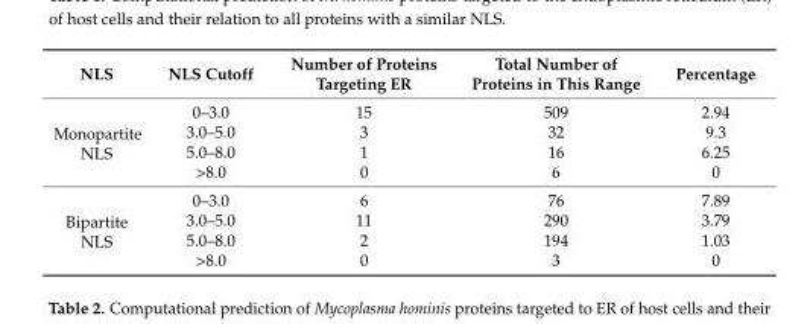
<table><thead><tr><td>NLS</td><td>NLS Cutoff</td><td>Number of Proteins Targeting ER</td><td>Total Number of Proteins in This Range</td><td>Percentage</td></tr></thead><tbody><tr><td rowspan="4">Monopartite NLS</td><td>0–3.0</td><td>15</td><td>509</td><td>2.94</td></tr><tr><td>3.0–5.0</td><td>3</td><td>32</td><td>9.3</td></tr><tr><td>5.0–8.0</td><td>1</td><td>16</td><td>6.25</td></tr><tr><td>&gt;8.0</td><td>0</td><td>6</td><td>0</td></tr><tr><td rowspan="4">Bipartite NLS</td><td>0–3.0</td><td>6</td><td>76</td><td>7.89</td></tr><tr><td>3.0–5.0</td><td>11</td><td>290</td><td>3.79</td></tr><tr><td>5.0–8.0</td><td>2</td><td>194</td><td>1.03</td></tr><tr><td>&gt;8.0</td><td>0</td><td>3</td><td>0</td></tr></tbody></table>